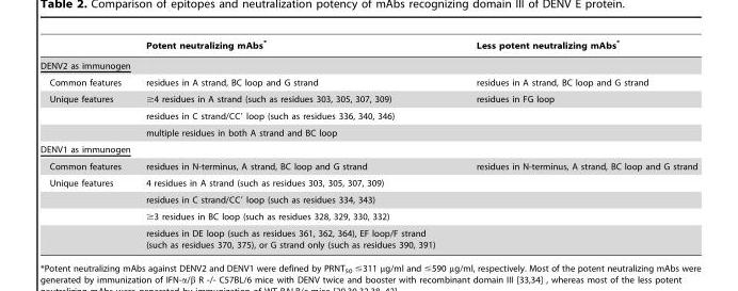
<table><thead><tr><td></td><td>Potent neutralizing mAbs*</td><td>Less potent neutralizing mAbs*</td></tr></thead><tbody><tr><td colspan="3">DENV2 as immunogen</td></tr><tr><td>Common features</td><td>residues in A strand, BC loop and G strand</td><td>residues in A strand, BC loop and G strand</td></tr><tr><td rowspan="3">Unique features</td><td>≥4 residues in A strand (such as residues 303, 305, 307, 309)</td><td>residues in FG loop</td></tr><tr><td>residues in C strand/CC′ loop (such as residues 336, 340, 346)</td><td></td></tr><tr><td>multiple residues in both A strand and BC loop</td><td></td></tr><tr><td colspan="3">DENV1 as immunogen</td></tr><tr><td>Common features</td><td>residues in N-terminus, A strand, BC loop and G strand</td><td>residues in N-terminus, A strand, BC loop and G strand</td></tr><tr><td rowspan="4">Unique features</td><td>4 residues in A strand (such as residues 303, 305, 307, 309)</td><td></td></tr><tr><td>residues in C strand/CC′ loop (such as residues 334, 343)</td><td></td></tr><tr><td>≥3 residues in BC loop (such as residues 328, 329, 330, 332)</td><td></td></tr><tr><td>residues in DE loop (such as residues 361, 362, 364), EF loop/F strand (such as residues 370, 375), or G strand only (such as residues 390, 391)</td><td></td></tr></tbody></table>